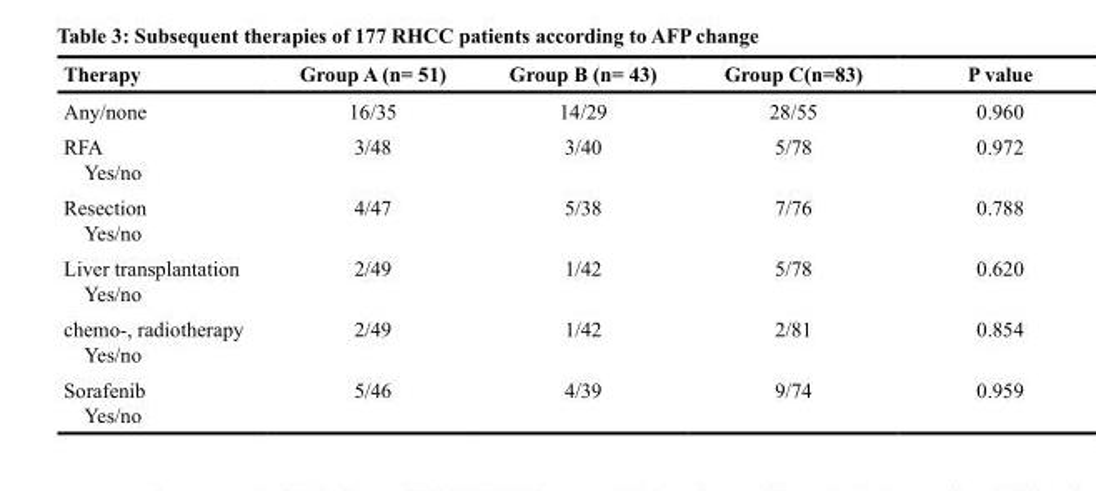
<table><thead><tr><td>Therapy</td><td>Group A (n= 51)</td><td>Group B (n= 43)</td><td>Group C(n=83)</td><td>P value</td></tr></thead><tbody><tr><td>Any/none</td><td>16/35</td><td>14/29</td><td>28/55</td><td>0.960</td></tr><tr><td>RFA Yes/no</td><td>3/48</td><td>3/40</td><td>5/78</td><td>0.972</td></tr><tr><td>Resection Yes/no</td><td>4/47</td><td>5/38</td><td>7/76</td><td>0.788</td></tr><tr><td>Liver transplantation Yes/no</td><td>2/49</td><td>1/42</td><td>5/78</td><td>0.620</td></tr><tr><td>chemo-, radiotherapy Yes/no</td><td>2/49</td><td>1/42</td><td>2/81</td><td>0.854</td></tr><tr><td>Sorafenib Yes/no</td><td>5/46</td><td>4/39</td><td>9/74</td><td>0.959</td></tr></tbody></table>